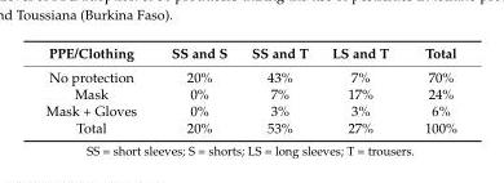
<table><thead><tr><td>PPE/Clothing</td><td>SS and S</td><td>SS and T</td><td>LS and T</td><td>Total</td></tr></thead><tbody><tr><td>No protection</td><td>20%</td><td>43%</td><td>7%</td><td>70%</td></tr><tr><td>Mask</td><td>0%</td><td>7%</td><td>17%</td><td>24%</td></tr><tr><td>Mask + Gloves</td><td>0%</td><td>3%</td><td>3%</td><td>6%</td></tr><tr><td>Total</td><td>20%</td><td>53%</td><td>27%</td><td>100%</td></tr></tbody></table>